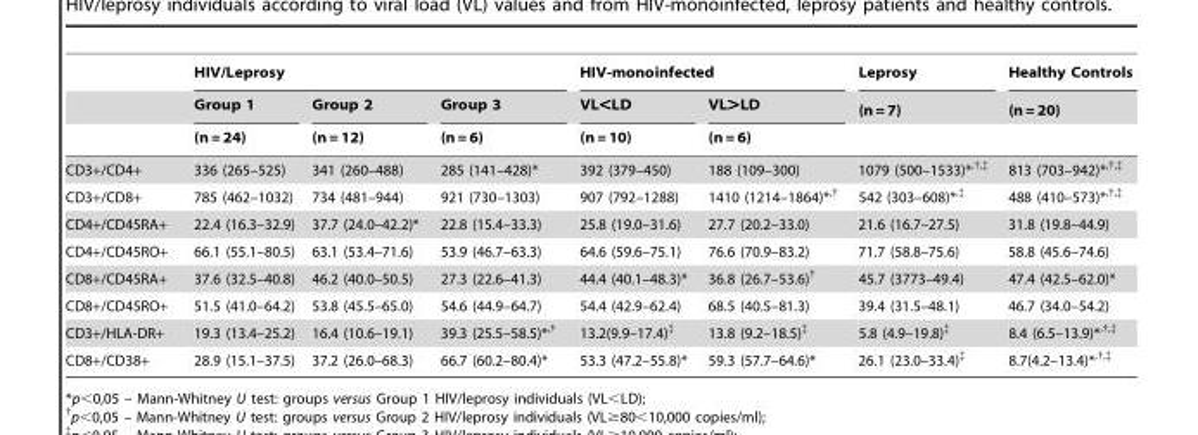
<table><thead><tr><td rowspan="3"></td><td colspan="3">HIV/Leprosy</td><td colspan="2">HIV-monoinfected</td><td rowspan="3">Leprosy (n = 7)</td><td rowspan="3">Healthy Controls (n = 20)</td></tr><tr><td rowspan="2">Group 1 (n = 24)</td><td rowspan="2">Group 2 (n = 12)</td><td rowspan="2">Group 3 (n = 6)</td><td rowspan="2">VL&lt;LD (n = 10)</td><td rowspan="2">VL&gt;LD (n = 6)</td></tr><tr></tr></thead><tbody><tr><td>CD3+/CD4+</td><td>336 (265–525)</td><td>341 (260–488)</td><td>285 (141–428)*</td><td>392 (379–450)</td><td>188 (109–300)</td><td>1079 (500–1533)*<sup>,</sup>†<sup>,</sup>‡</td><td>813 (703–942)*<sup>,</sup>†<sup>,</sup>‡</td></tr><tr><td>CD3+/CD8+</td><td>785 (462–1032)</td><td>734 (481–944)</td><td>921 (730–1303)</td><td>907 (792–1288)</td><td>1410 (1214–1864)*<sup>,</sup>†</td><td>542 (303–608)*<sup>,</sup>‡</td><td>488 (410–573)*<sup>,</sup>†<sup>,</sup>‡</td></tr><tr><td>CD4+/CD45RA+</td><td>22.4 (16.3–32.9)</td><td>37.7 (24.0–42.2)*</td><td>22.8 (15.4–33.3)</td><td>25.8 (19.0–31.6)</td><td>27.7 (20.2–33.0)</td><td>21.6 (16.7–27.5)</td><td>31.8 (19.8–44.9)</td></tr><tr><td>CD4+/CD45RO+</td><td>66.1 (55.1–80.5)</td><td>63.1 (53.4–71.6)</td><td>53.9 (46.7–63.3)</td><td>64.6 (59.6–75.1)</td><td>76.6 (70.9–83.2)</td><td>71.7 (58.8–75.6)</td><td>58.8 (45.6–74.6)</td></tr><tr><td>CD8+/CD45RA+</td><td>37.6 (32.5–40.8)</td><td>46.2 (40.0–50.5)</td><td>27.3 (22.6–41.3)</td><td>44.4 (40.1–48.3)*</td><td>36.8 (26.7–53.6)†</td><td>45.7 (3773–49.4)</td><td>47.4 (42.5–62.0)*</td></tr><tr><td>CD8+/CD45RO+</td><td>51.5 (41.0–64.2)</td><td>53.8 (45.5–65.0)</td><td>54.6 (44.9–64.7)</td><td>54.4 (42.9–62.4)</td><td>68.5 (40.5–81.3)</td><td>39.4 (31.5–48.1)</td><td>46.7 (34.0–54.2)</td></tr><tr><td>CD3+/HLA-DR+</td><td>19.3 (13.4–25.2)</td><td>16.4 (10.6–19.1)</td><td>39.3 (25.5–58.5)*<sup>,</sup>†</td><td>13.2(9.9–17.4)‡</td><td>13.8 (9.2–18.5)‡</td><td>5.8 (4.9–19.8)‡</td><td>8.4 (6.5–13.9)*<sup>,</sup>†<sup>,</sup>‡</td></tr><tr><td>CD8+/CD38+</td><td>28.9 (15.1–37.5)</td><td>37.2 (26.0–68.3)</td><td>66.7 (60.2–80.4)*</td><td>53.3 (47.2–55.8)*</td><td>59.3 (57.7–64.6)*</td><td>26.1 (23.0–33.4)‡</td><td>8.7(4.2–13.4)*<sup>,</sup>†<sup>,</sup>‡</td></tr></tbody></table>